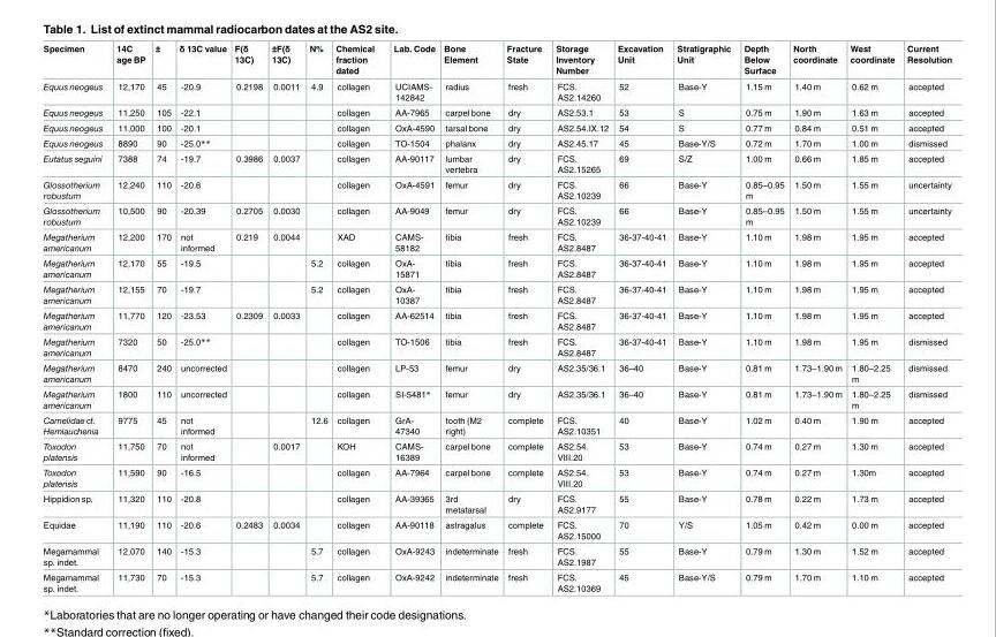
<table><thead><tr><td>Specimen</td><td>14C age BP</td><td>±</td><td>δ 13C value</td><td>F(δ 13C)</td><td>±F(δ 13C)</td><td>N%</td><td>Chemical fraction dated</td><td>Lab. Code</td><td>Bone Element</td><td>Fracture State</td><td>Storage Inventory Number</td><td>Excavation Unit</td><td>Stratigraphic Unit</td><td>Depth Below Surface</td><td>North coordinate</td><td>West coordinate</td><td>Current Resolution</td></tr></thead><tbody><tr><td>Equus neogeus</td><td>12,170</td><td>45</td><td>-20.9</td><td>0.2198</td><td>0.0011</td><td>4.9</td><td>collagen</td><td>UCIAMS- 142842</td><td>radius</td><td>fresh</td><td>FCS. AS2.14260</td><td>52</td><td>Base-Y</td><td>1.15 m</td><td>1.40 m</td><td>0.62 m</td><td>accepted</td></tr><tr><td>Equus neogeus</td><td>11,250</td><td>105</td><td>-22.1</td><td></td><td></td><td></td><td>collagen</td><td>AA-7965</td><td>carpel bone</td><td>dry</td><td>AS2.53.1</td><td>53</td><td>S</td><td>0.75 m</td><td>1.90 m</td><td>1.63 m</td><td>accepted</td></tr><tr><td>Equus neogeus</td><td>11,000</td><td>100</td><td>-20.1</td><td></td><td></td><td></td><td>collagen</td><td>OxA-4590</td><td>tarsal bone</td><td>dry</td><td>AS2.54.IX.12</td><td>54</td><td>S</td><td>0.77 m</td><td>0.84 m</td><td>0.51 m</td><td>accepted</td></tr><tr><td>Equus neogeus</td><td>8890</td><td>90</td><td>-25.0**</td><td></td><td></td><td></td><td>collagen</td><td>TO-1504</td><td>phalanx</td><td>dry</td><td>AS2.45.17</td><td>45</td><td>Base-Y/S</td><td>0.72 m</td><td>1.70 m</td><td>1.00 m</td><td>dismissed</td></tr><tr><td>Eutatus seguini</td><td>7388</td><td>74</td><td>-19.7</td><td>0.3986</td><td>0.0037</td><td></td><td>collagen</td><td>AA-90117</td><td>lumbar vertebra</td><td>dry</td><td>FCS. AS2.15265</td><td>69</td><td>S/Z</td><td>1.00 m</td><td>0.66 m</td><td>1.85 m</td><td>accepted</td></tr><tr><td>Glossotherium robustum</td><td>12,240</td><td>110</td><td>-20.6</td><td></td><td></td><td></td><td>collagen</td><td>OxA-4591</td><td>femur</td><td>dry</td><td>FCS. AS2.10239</td><td>66</td><td>Base-Y</td><td>0.85–0.95 m</td><td>1.50 m</td><td>1.55 m</td><td>uncertainty</td></tr><tr><td>Glossotherium robustum</td><td>10,500</td><td>90</td><td>-20.39</td><td>0.2705</td><td>0.0030</td><td></td><td>collagen</td><td>AA-9049</td><td>femur</td><td>dry</td><td>FCS. AS2.10239</td><td>66</td><td>Base-Y</td><td>0.85–0.95 m</td><td>1.50 m</td><td>1.55 m</td><td>uncertainty</td></tr><tr><td>Megatherium americanum</td><td>12,200</td><td>170</td><td>not informed</td><td>0.219</td><td>0.0044</td><td></td><td>XAD</td><td>CAMS- 58182</td><td>tibia</td><td>fresh</td><td>FCS. AS2.8487</td><td>36-37-40-41</td><td>Base-Y</td><td>1.10 m</td><td>1.98 m</td><td>1.95 m</td><td>accepted</td></tr><tr><td>Megatherium americanum</td><td>12,170</td><td>55</td><td>-19.5</td><td></td><td></td><td>5.2</td><td>collagen</td><td>OxA- 15871</td><td>tibia</td><td>fresh</td><td>FCS. AS2.8487</td><td>36-37-40-41</td><td>Base-Y</td><td>1.10 m</td><td>1.98 m</td><td>1.95 m</td><td>accepted</td></tr><tr><td>Megatherium americanum</td><td>12,155</td><td>70</td><td>-19.7</td><td></td><td></td><td>5.2</td><td>collagen</td><td>OxA- 10387</td><td>tibia</td><td>fresh</td><td>FCS. AS2.8487</td><td>36-37-40-41</td><td>Base-Y</td><td>1.10 m</td><td>1.98 m</td><td>1.95 m</td><td>accepted</td></tr><tr><td>Megatherium americanum</td><td>11,770</td><td>120</td><td>-23.53</td><td>0.2309</td><td>0.0033</td><td></td><td>collagen</td><td>AA-62514</td><td>tibia</td><td>fresh</td><td>FCS. AS2.8487</td><td>36-37-40-41</td><td>Base-Y</td><td>1.10 m</td><td>1.98 m</td><td>1.95 m</td><td>accepted</td></tr><tr><td>Megatherium americanum</td><td>7320</td><td>50</td><td>-25.0**</td><td></td><td></td><td></td><td>collagen</td><td>TO-1506</td><td>tibia</td><td>fresh</td><td>FCS. AS2.8487</td><td>36-37-40-41</td><td>Base-Y</td><td>1.10 m</td><td>1.98 m</td><td>1.95 m</td><td>dismissed</td></tr><tr><td>Megatherium americanum</td><td>8470</td><td>240</td><td>uncorrected</td><td></td><td></td><td></td><td>collagen</td><td>LP-53</td><td>femur</td><td>dry</td><td>AS2.35/36.1</td><td>36–40</td><td>Base-Y</td><td>0.81 m</td><td>1.73–1.90 m</td><td>1.80–2.25 m</td><td>dismissed</td></tr><tr><td>Megatherium americanum</td><td>1800</td><td>110</td><td>uncorrected</td><td></td><td></td><td></td><td>collagen</td><td>SI-5481*</td><td>femur</td><td>dry</td><td>AS2.35/36.1</td><td>36–40</td><td>Base-Y</td><td>0.81 m</td><td>1.73–1.90 m</td><td>1.80–2.25 m</td><td>dismissed</td></tr><tr><td>Camelidae cf. Hemiauchenia</td><td>9775</td><td>45</td><td>not informed</td><td></td><td></td><td>12.6</td><td>collagen</td><td>GrA- 47340</td><td>tooth (M2 right)</td><td>complete</td><td>FCS. AS2.10351</td><td>40</td><td>Base-Y</td><td>1.02 m</td><td>0.40 m</td><td>1.90 m</td><td>accepted</td></tr><tr><td>Toxodon platensis</td><td>11,750</td><td>70</td><td>not informed</td><td></td><td>0.0017</td><td></td><td>KOH</td><td>CAMS- 16389</td><td>carpel bone</td><td>complete</td><td>AS2.54. VIII.20</td><td>53</td><td>Base-Y</td><td>0.74 m</td><td>0.27 m</td><td>1.30 m</td><td>accepted</td></tr><tr><td>Toxodon platensis</td><td>11,590</td><td>90</td><td>-16.5</td><td></td><td></td><td></td><td>collagen</td><td>AA-7964</td><td>carpel bone</td><td>complete</td><td>AS2.54. VIII.20</td><td>53</td><td>Base-Y</td><td>0.74 m</td><td>0.27 m</td><td>1.30m</td><td>accepted</td></tr><tr><td>Hippidion sp.</td><td>11,320</td><td>110</td><td>-20.8</td><td></td><td></td><td></td><td>collagen</td><td>AA-39365</td><td>3rd metatarsal</td><td>dry</td><td>FCS. AS2.9177</td><td>55</td><td>Base-Y</td><td>0.78 m</td><td>0.22 m</td><td>1.73 m</td><td>accepted</td></tr><tr><td>Equidae</td><td>11,190</td><td>110</td><td>-20.6</td><td>0.2483</td><td>0.0034</td><td></td><td>collagen</td><td>AA-90118</td><td>astragalus</td><td>complete</td><td>FCS. AS2.15000</td><td>70</td><td>Y/S</td><td>1.05 m</td><td>0.42 m</td><td>0.00 m</td><td>accepted</td></tr><tr><td>Megamammal sp. indet.</td><td>12,070</td><td>140</td><td>-15.3</td><td></td><td></td><td>5.7</td><td>collagen</td><td>OxA-9243</td><td>indeterminate</td><td>fresh</td><td>FCS. AS2.1987</td><td>55</td><td>Base-Y</td><td>0.79 m</td><td>1.30 m</td><td>1.52 m</td><td>accepted</td></tr><tr><td>Megamammal sp. indet.</td><td>11,730</td><td>70</td><td>-15.3</td><td></td><td></td><td>5.7</td><td>collagen</td><td>OxA-9242</td><td>indeterminate</td><td>fresh</td><td>FCS. AS2.10369</td><td>45</td><td>Base-Y/S</td><td>0.79 m</td><td>1.70 m</td><td>1.10 m</td><td>accepted</td></tr></tbody></table>